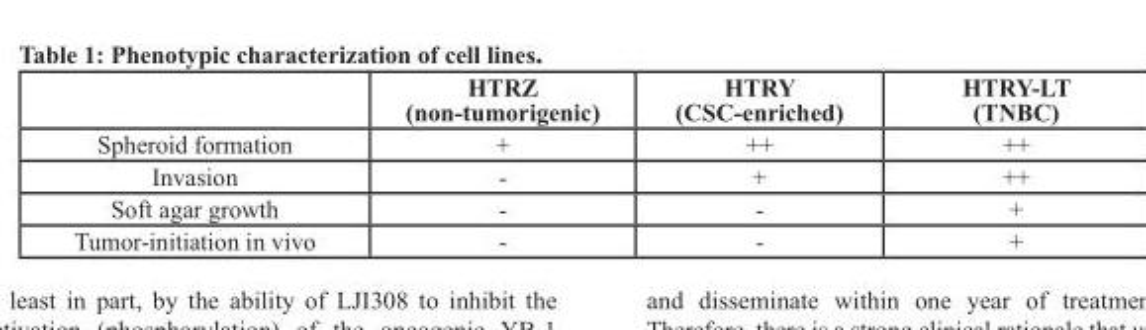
<table><thead><tr><td></td><td>HTRZ (non-tumorigenic)</td><td>HTRY (CSC-enriched)</td><td>HTRY-LT (TNBC)</td></tr></thead><tbody><tr><td>Spheroid formation</td><td>+</td><td>++</td><td>++</td></tr><tr><td>Invasion</td><td>-</td><td>+</td><td>++</td></tr><tr><td>Soft agar growth</td><td>-</td><td>-</td><td>+</td></tr><tr><td>Tumor-initiation in vivo</td><td>-</td><td>-</td><td>+</td></tr></tbody></table>